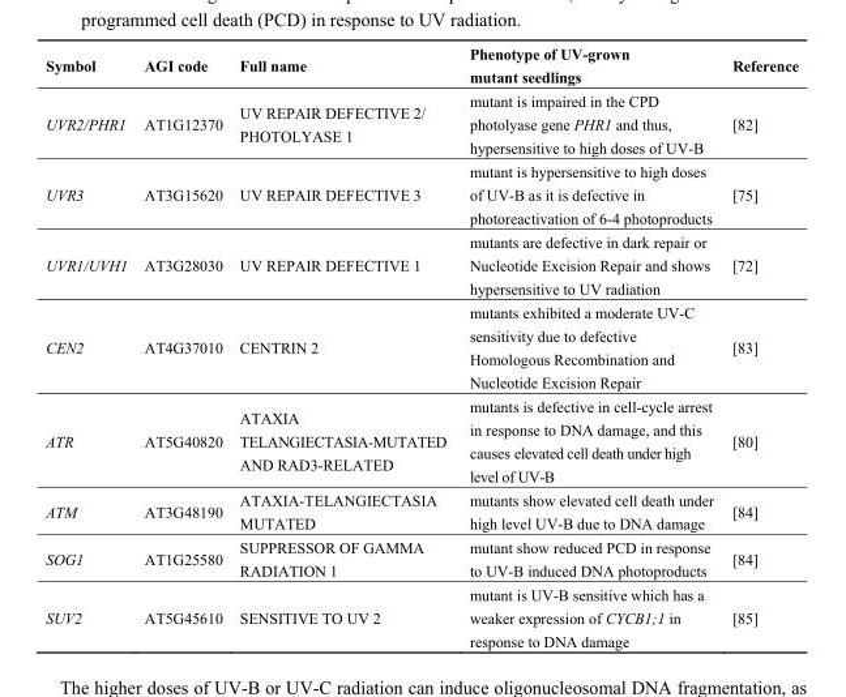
<table><thead><tr><td>Symbol</td><td>AGI code</td><td>Full name</td><td>Phenotype of UV-grown mutant seedlings</td><td>Reference</td></tr></thead><tbody><tr><td>UVR2/PHR1</td><td>AT1G12370</td><td>UV REPAIR DEFECTIVE 2/ PHOTOLYASE 1</td><td>mutant is impaired in the CPD photolyase gene PHR1 and thus, hypersensitive to high doses of UV-B</td><td>[ 82]</td></tr><tr><td>UVR3</td><td>AT3G15620</td><td>UV REPAIR DEFECTIVE 3</td><td>mutant is hypersensitive to high doses of UV-B as it is defective in photoreactivation of 6-4 photoproducts</td><td>[ 75]</td></tr><tr><td>UVR1/UVH1</td><td>AT3G28030</td><td>UV REPAIR DEFECTIVE 1</td><td>mutants are defective in dark repair or Nucleotide Excision Repair and shows hypersensitive to UV radiation</td><td>[ 72]</td></tr><tr><td>CEN2</td><td>AT4G37010</td><td>CENTRIN 2</td><td>mutants exhibited a moderate UV-C sensitivity due to defective Homologous Recombination and Nucleotide Excision Repair</td><td>[ 83]</td></tr><tr><td>ATR</td><td>AT5G40820</td><td>ATAXIA TELANGIECTASIA-MUTATED AND RAD3-RELATED</td><td>mutants is defective in cell-cycle arrest in response to DNA damage, and this causes elevated cell death under high level of UV-B</td><td>[ 80]</td></tr><tr><td>ATM</td><td>AT3G48190</td><td>ATAXIA-TELANGIECTASIA MUTATED</td><td>mutants show elevated cell death under high level UV-B due to DNA damage</td><td>[ 84]</td></tr><tr><td>SOG1</td><td>AT1G25580</td><td>SUPPRESSOR OF GAMMA RADIATION 1</td><td>mutant show reduced PCD in response to UV-B induced DNA photoproducts</td><td>[ 84]</td></tr><tr><td>SUV2</td><td>AT5G45610</td><td>SENSITIVE TO UV 2</td><td>mutant is UV-B sensitive which has a weaker expression of CYCB1;1 in response to DNA damage</td><td>[ 85]</td></tr></tbody></table>